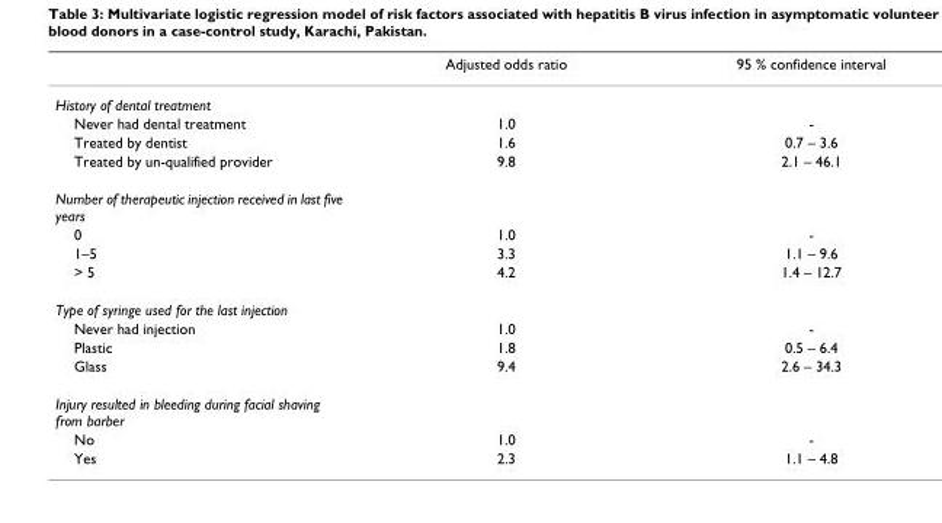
<table><thead><tr><td></td><td>Adjusted odds ratio</td><td>95 % confidence interval</td></tr></thead><tbody><tr><td colspan="3">History of dental treatment</td></tr><tr><td>Never had dental treatment</td><td>1.0</td><td>-</td></tr><tr><td>Treated by dentist</td><td>1.6</td><td>0.7 – 3.6</td></tr><tr><td>Treated by un-qualified provider</td><td>9.8</td><td>2.1 – 46.1</td></tr><tr><td colspan="3">Number of therapeutic injection received in last five years</td></tr><tr><td>0</td><td>1.0</td><td>-</td></tr><tr><td>1–5</td><td>3.3</td><td>1.1 – 9.6</td></tr><tr><td>&gt; 5</td><td>4.2</td><td>1.4 – 12.7</td></tr><tr><td colspan="3">Type of syringe used for the last injection</td></tr><tr><td>Never had injection</td><td>1.0</td><td>-</td></tr><tr><td>Plastic</td><td>1.8</td><td>0.5 – 6.4</td></tr><tr><td>Glass</td><td>9.4</td><td>2.6 – 34.3</td></tr><tr><td colspan="3">Injury resulted in bleeding during facial shaving from barber</td></tr><tr><td>No</td><td>1.0</td><td>-</td></tr><tr><td>Yes</td><td>2.3</td><td>1.1 – 4.8</td></tr></tbody></table>